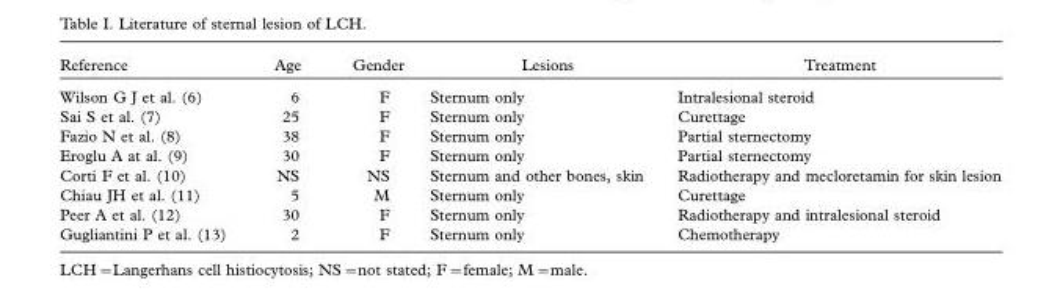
<table><thead><tr><td>Reference</td><td>Age</td><td>Gender</td><td>Lesions</td><td>Treatment</td></tr></thead><tbody><tr><td>Wilson G J et al. (6)</td><td>6</td><td>F</td><td>Sternum only</td><td>Intralesional steroid</td></tr><tr><td>Sai S et al. (7)</td><td>25</td><td>F</td><td>Sternum only</td><td>Curettage</td></tr><tr><td>Fazio N et al. (8)</td><td>38</td><td>F</td><td>Sternum only</td><td>Partial sternectomy</td></tr><tr><td>Eroglu A at al. (9)</td><td>30</td><td>F</td><td>Sternum only</td><td>Partial sternectomy</td></tr><tr><td>Corti F et al. (10)</td><td>NS</td><td>NS</td><td>Sternum and other bones, skin</td><td>Radiotherapy and mecloretamin for skin lesion</td></tr><tr><td>Chiau JH et al. (11)</td><td>5</td><td>M</td><td>Sternum only</td><td>Curettage</td></tr><tr><td>Peer A et al. (12)</td><td>30</td><td>F</td><td>Sternum only</td><td>Radiotherapy and intralesional steroid</td></tr><tr><td>Gugliantini P et al. (13)</td><td>2</td><td>F</td><td>Sternum only</td><td>Chemotherapy</td></tr></tbody></table>